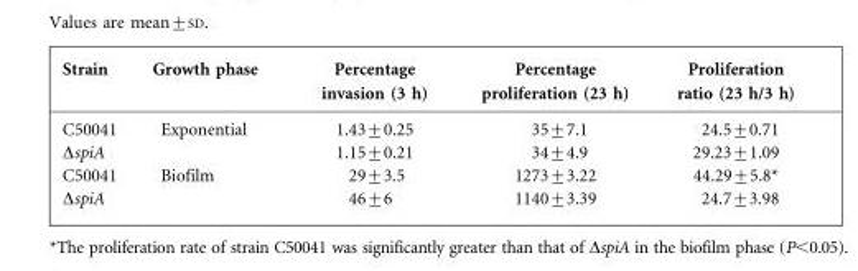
<table><thead><tr><td>Strain</td><td>Growth phase</td><td>Percentage invasion (3 h)</td><td>Percentage proliferation (23 h)</td><td>Proliferation ratio (23 h/3 h)</td></tr></thead><tbody><tr><td>C50041</td><td>Exponential</td><td>1.43±0.25</td><td>35±7.1</td><td>24.5±0.71</td></tr><tr><td>ΔspiA</td><td></td><td>1.15±0.21</td><td>34±4.9</td><td>29.23±1.09</td></tr><tr><td>C50041</td><td>Biofilm</td><td>29±3.5</td><td>1273±3.22</td><td>44.29±5.8*</td></tr><tr><td>ΔspiA</td><td></td><td>46±6</td><td>1140±3.39</td><td>24.7±3.98</td></tr></tbody></table>